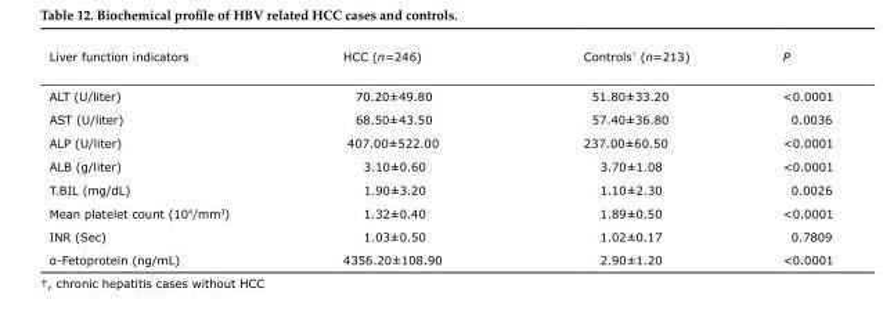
<table><thead><tr><td>Liver function indicators</td><td>HCC (n=246)</td><td>Controls<sup>†</sup> (n=213)</td><td>P</td></tr></thead><tbody><tr><td>ALT (U/liter)</td><td>70.20±49.80</td><td>51.80±33.20</td><td>&lt;0.0001</td></tr><tr><td>AST (U/liter)</td><td>68.50±43.50</td><td>57.40±36.80</td><td>0.0036</td></tr><tr><td>ALP (U/liter)</td><td>407.00±522.00</td><td>237.00±60.50</td><td>&lt;0.0001</td></tr><tr><td>ALB (g/liter)</td><td>3.10±0.60</td><td>3.70±1.08</td><td>&lt;0.0001</td></tr><tr><td>T.BIL (mg/dL)</td><td>1.90±3.20</td><td>1.10±2.30</td><td>0.0026</td></tr><tr><td>Mean platelet count (10<sup>4</sup>/mm<sup>3</sup>)</td><td>1.32±0.40</td><td>1.89±0.50</td><td>&lt;0.0001</td></tr><tr><td>INR (Sec)</td><td>1.03±0.50</td><td>1.02±0.17</td><td>0.7809</td></tr><tr><td>α-Fetoprotein (ng/mL)</td><td>4356.20±108.90</td><td>2.90±1.20</td><td>&lt;0.0001</td></tr></tbody></table>